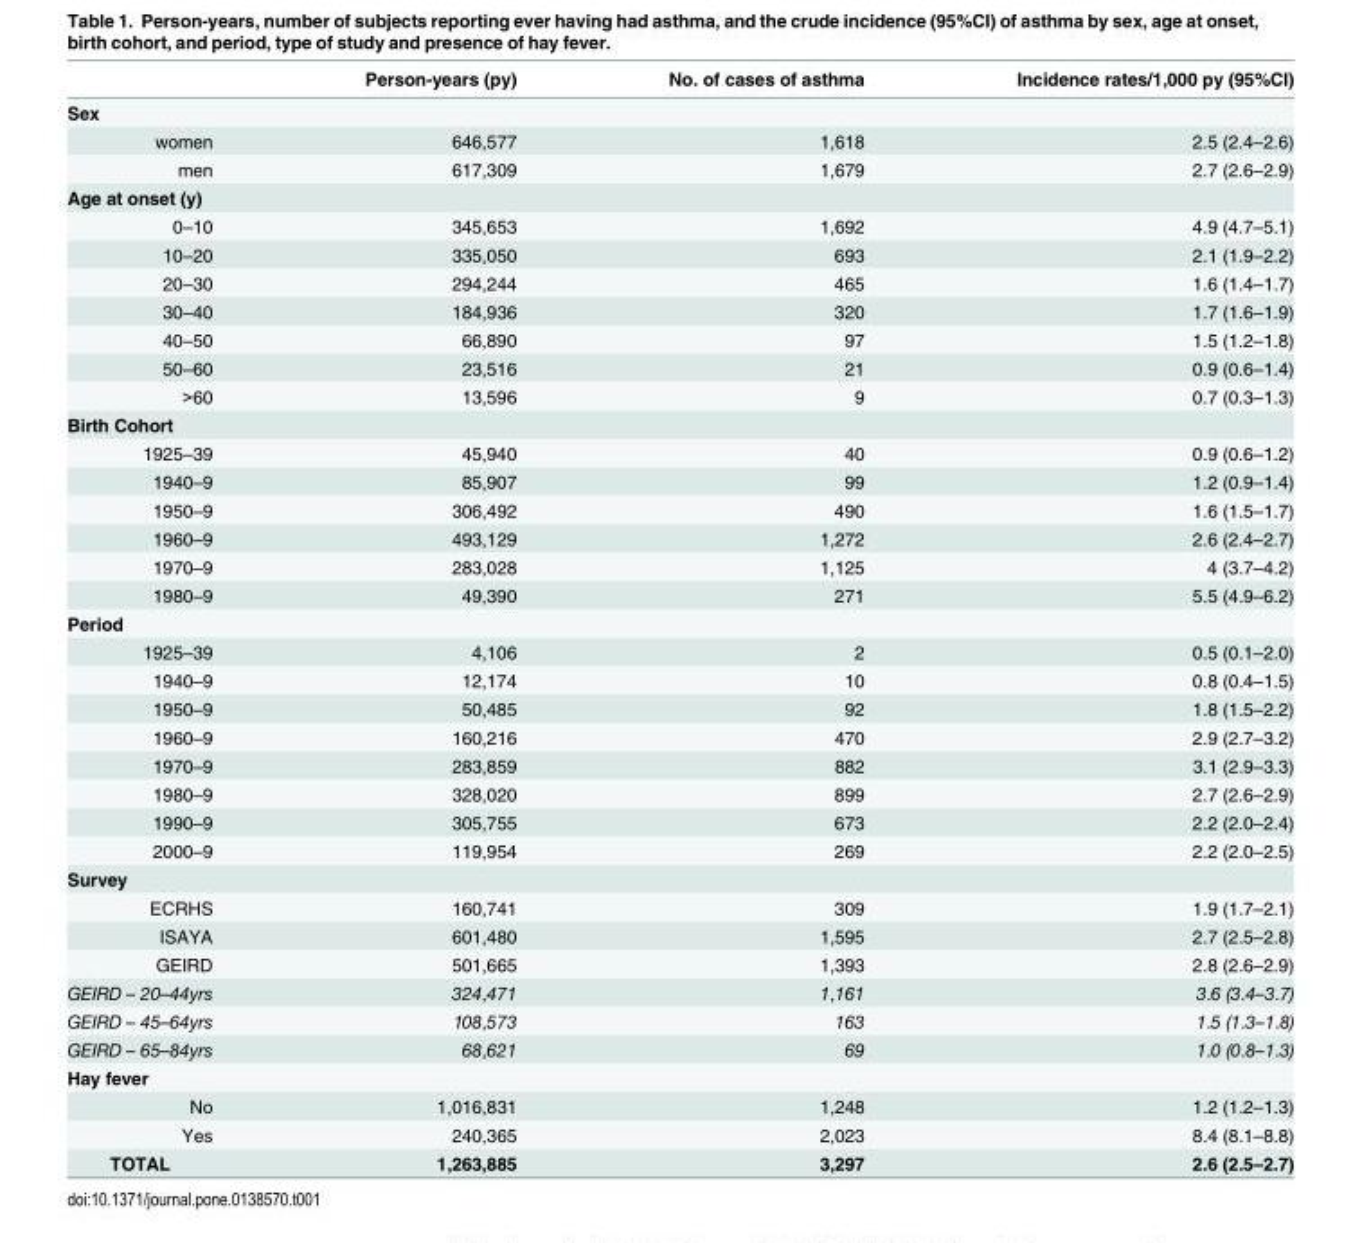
<table><thead><tr><td></td><td>Person-years (py)</td><td>No. of cases of asthma</td><td>Incidence rates/1,000 py (95%CI)</td></tr></thead><tbody><tr><td colspan="4">Sex</td></tr><tr><td>women</td><td>646,577</td><td>1,618</td><td>2.5 (2.4–2.6)</td></tr><tr><td>men</td><td>617,309</td><td>1,679</td><td>2.7 (2.6–2.9)</td></tr><tr><td colspan="4">Age at onset (y)</td></tr><tr><td>0–10</td><td>345,653</td><td>1,692</td><td>4.9 (4.7–5.1)</td></tr><tr><td>10–20</td><td>335,050</td><td>693</td><td>2.1 (1.9–2.2)</td></tr><tr><td>20–30</td><td>294,244</td><td>465</td><td>1.6 (1.4–1.7)</td></tr><tr><td>30–40</td><td>184,936</td><td>320</td><td>1.7 (1.6–1.9)</td></tr><tr><td>40–50</td><td>66,890</td><td>97</td><td>1.5 (1.2–1.8)</td></tr><tr><td>50–60</td><td>23,516</td><td>21</td><td>0.9 (0.6–1.4)</td></tr><tr><td>&gt;60</td><td>13,596</td><td>9</td><td>0.7 (0.3–1.3)</td></tr><tr><td colspan="4">Birth Cohort</td></tr><tr><td>1925–39</td><td>45,940</td><td>40</td><td>0.9 (0.6–1.2)</td></tr><tr><td>1940–9</td><td>85,907</td><td>99</td><td>1.2 (0.9–1.4)</td></tr><tr><td>1950–9</td><td>306,492</td><td>490</td><td>1.6 (1.5–1.7)</td></tr><tr><td>1960–9</td><td>493,129</td><td>1,272</td><td>2.6 (2.4–2.7)</td></tr><tr><td>1970–9</td><td>283,028</td><td>1,125</td><td>4 (3.7–4.2)</td></tr><tr><td>1980–9</td><td>49,390</td><td>271</td><td>5.5 (4.9–6.2)</td></tr><tr><td colspan="4">Period</td></tr><tr><td>1925–39</td><td>4,106</td><td>2</td><td>0.5 (0.1–2.0)</td></tr><tr><td>1940–9</td><td>12,174</td><td>10</td><td>0.8 (0.4–1.5)</td></tr><tr><td>1950–9</td><td>50,485</td><td>92</td><td>1.8 (1.5–2.2)</td></tr><tr><td>1960–9</td><td>160,216</td><td>470</td><td>2.9 (2.7–3.2)</td></tr><tr><td>1970–9</td><td>283,859</td><td>882</td><td>3.1 (2.9–3.3)</td></tr><tr><td>1980–9</td><td>328,020</td><td>899</td><td>2.7 (2.6–2.9)</td></tr><tr><td>1990–9</td><td>305,755</td><td>673</td><td>2.2 (2.0–2.4)</td></tr><tr><td>2000–9</td><td>119,954</td><td>269</td><td>2.2 (2.0–2.5)</td></tr><tr><td colspan="4">Survey</td></tr><tr><td>ECRHS</td><td>160,741</td><td>309</td><td>1.9 (1.7–2.1)</td></tr><tr><td>ISAYA</td><td>601,480</td><td>1,595</td><td>2.7 (2.5–2.8)</td></tr><tr><td>GEIRD</td><td>501,665</td><td>1,393</td><td>2.8 (2.6–2.9)</td></tr><tr><td>GEIRD – 20–44yrs</td><td>324,471</td><td>1,161</td><td>3.6 (3.4–3.7)</td></tr><tr><td>GEIRD – 45–64yrs</td><td>108,573</td><td>163</td><td>1.5 (1.3–1.8)</td></tr><tr><td>GEIRD – 65–84yrs</td><td>68,621</td><td>69</td><td>1.0 (0.8–1.3)</td></tr><tr><td colspan="4">Hay fever</td></tr><tr><td>No</td><td>1,016,831</td><td>1,248</td><td>1.2 (1.2–1.3)</td></tr><tr><td>Yes</td><td>240,365</td><td>2,023</td><td>8.4 (8.1–8.8)</td></tr><tr><td>TOTAL</td><td>1,263,885</td><td>3,297</td><td>2.6 (2.5–2.7)</td></tr></tbody></table>